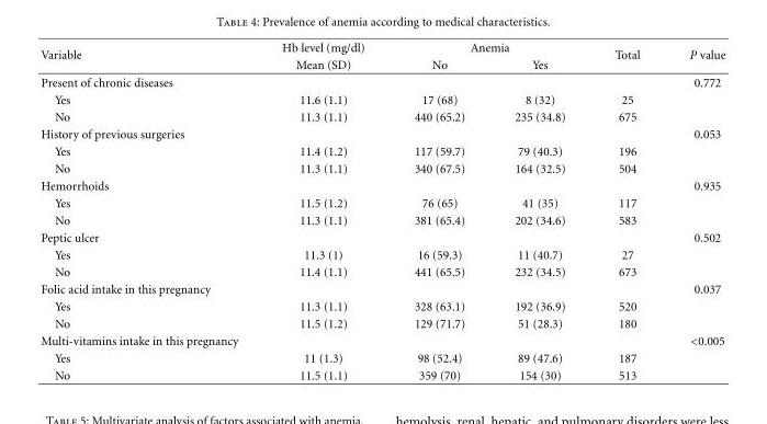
<table><thead><tr><td rowspan="2">Variable</td><td rowspan="2">Hb level (mg/dl) Mean (SD)</td><td colspan="2">Anemia</td><td rowspan="2">Total</td><td rowspan="2">P value</td></tr><tr><td>No</td><td>Yes</td></tr></thead><tbody><tr><td>Present of chronic diseases</td><td></td><td colspan="2"></td><td></td><td>0.772</td></tr><tr><td>Yes</td><td>11.6 (1.1)</td><td>17 (68)</td><td>8 (32)</td><td>25</td><td></td></tr><tr><td>No</td><td>11.3 (1.1)</td><td>440 (65.2)</td><td>235 (34.8)</td><td>675</td><td></td></tr><tr><td>History of previous surgeries</td><td colspan="4"></td><td>0.053</td></tr><tr><td>Yes</td><td>11.4 (1.2)</td><td>117 (59.7)</td><td>79 (40.3)</td><td>196</td><td></td></tr><tr><td>No</td><td>11.3 (1.1)</td><td>340 (67.5)</td><td>164 (32.5)</td><td>504</td><td></td></tr><tr><td>Hemorrhoids</td><td colspan="4"></td><td>0.935</td></tr><tr><td>Yes</td><td>11.5 (1.2)</td><td>76 (65)</td><td>41 (35)</td><td>117</td><td></td></tr><tr><td>No</td><td>11.3 (1.1)</td><td>381 (65.4)</td><td>202 (34.6)</td><td>583</td><td></td></tr><tr><td>Peptic ulcer</td><td></td><td></td><td></td><td></td><td>0.502</td></tr><tr><td>Yes</td><td>11.3 (1)</td><td>16 (59.3)</td><td>11 (40.7)</td><td>27</td><td></td></tr><tr><td>No</td><td>11.4 (1.1)</td><td>441 (65.5)</td><td>232 (34.5)</td><td>673</td><td></td></tr><tr><td>Folic acid intake in this pregnancy</td><td colspan="4"></td><td>0.037</td></tr><tr><td>Yes</td><td>11.3 (1.1)</td><td>328 (63.1)</td><td>192 (36.9)</td><td>520</td><td></td></tr><tr><td>No</td><td>11.5 (1.2)</td><td>129 (71.7)</td><td>51 (28.3)</td><td>180</td><td></td></tr><tr><td>Multi-vitamins intake in this pregnancy</td><td colspan="4"></td><td>&lt;0.005</td></tr><tr><td>Yes</td><td>11 (1.3)</td><td>98 (52.4)</td><td>89 (47.6)</td><td>187</td><td></td></tr><tr><td>No</td><td>11.5 (1.1)</td><td>359 (70)</td><td>154 (30)</td><td>513</td><td></td></tr></tbody></table>